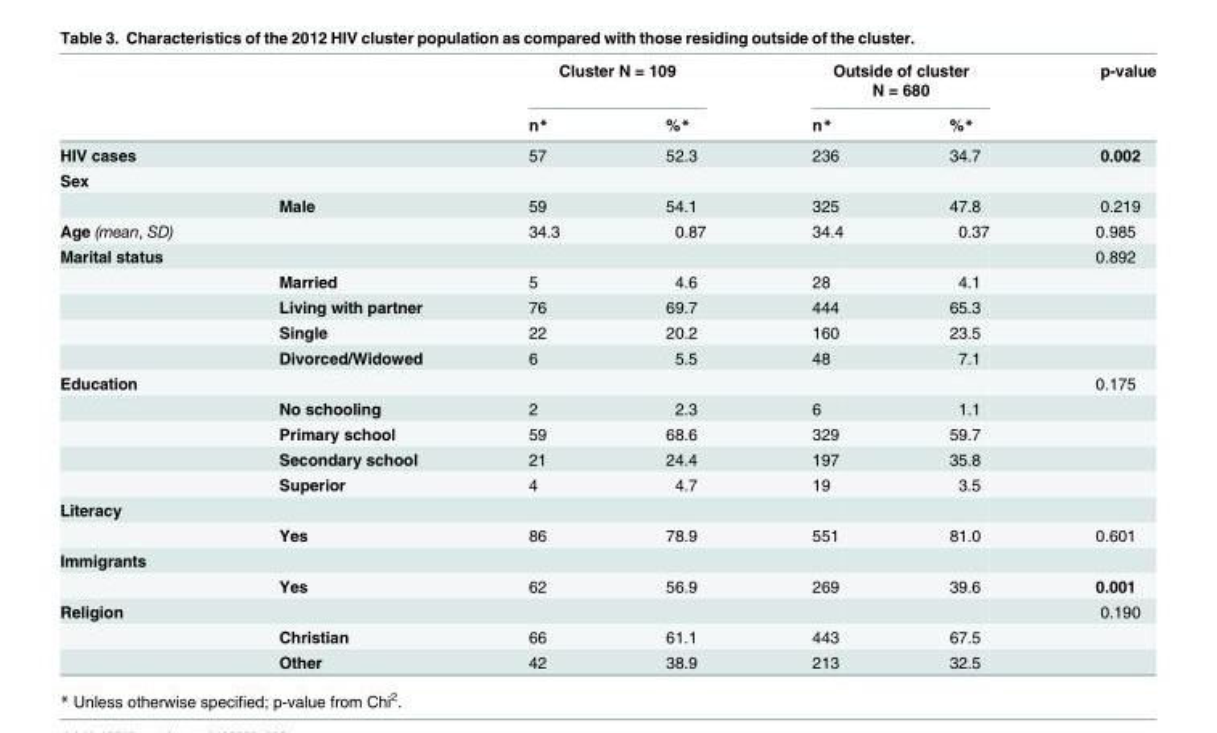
<table><thead><tr><td rowspan="2"></td><td rowspan="2"></td><td colspan="2">Cluster N = 109</td><td colspan="2">Outside of cluster N = 680</td><td rowspan="2">p-value</td></tr><tr><td>n*</td><td>%*</td><td>n*</td><td>%*</td></tr></thead><tbody><tr><td>HIV cases</td><td></td><td>57</td><td>52.3</td><td>236</td><td>34.7</td><td>0.002</td></tr><tr><td colspan="7">Sex</td></tr><tr><td></td><td>Male</td><td>59</td><td>54.1</td><td>325</td><td>47.8</td><td>0.219</td></tr><tr><td>Age (mean, SD)</td><td></td><td>34.3</td><td>0.87</td><td>34.4</td><td>0.37</td><td>0.985</td></tr><tr><td rowspan="5">Marital status</td><td></td><td></td><td></td><td></td><td></td><td>0.892</td></tr><tr><td>Married</td><td>5</td><td>4.6</td><td>28</td><td>4.1</td><td></td></tr><tr><td>Living with partner</td><td>76</td><td>69.7</td><td>444</td><td>65.3</td><td></td></tr><tr><td>Single</td><td>22</td><td>20.2</td><td>160</td><td>23.5</td><td></td></tr><tr><td>Divorced/Widowed</td><td>6</td><td>5.5</td><td>48</td><td>7.1</td><td></td></tr><tr><td rowspan="5">Education</td><td></td><td></td><td></td><td></td><td></td><td>0.175</td></tr><tr><td>No schooling</td><td>2</td><td>2.3</td><td>6</td><td>1.1</td><td></td></tr><tr><td>Primary school</td><td>59</td><td>68.6</td><td>329</td><td>59.7</td><td></td></tr><tr><td>Secondary school</td><td>21</td><td>24.4</td><td>197</td><td>35.8</td><td></td></tr><tr><td>Superior</td><td>4</td><td>4.7</td><td>19</td><td>3.5</td><td></td></tr><tr><td colspan="7">Literacy</td></tr><tr><td></td><td>Yes</td><td>86</td><td>78.9</td><td>551</td><td>81.0</td><td>0.601</td></tr><tr><td colspan="7">Immigrants</td></tr><tr><td></td><td>Yes</td><td>62</td><td>56.9</td><td>269</td><td>39.6</td><td>0.001</td></tr><tr><td rowspan="3">Religion</td><td></td><td></td><td></td><td></td><td></td><td>0.190</td></tr><tr><td>Christian</td><td>66</td><td>61.1</td><td>443</td><td>67.5</td><td></td></tr><tr><td>Other</td><td>42</td><td>38.9</td><td>213</td><td>32.5</td><td></td></tr></tbody></table>